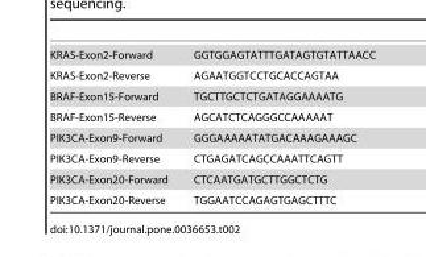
<table><tbody><tr><td>KRAS-Exon2-Forward</td><td>GGTGGAGTATTTGATAGTGTATTAACC</td></tr><tr><td>KRAS-Exon2-Reverse</td><td>AGAATGGTCCTGCACCAGTAA</td></tr><tr><td>BRAF-Exon15-Forward</td><td>TGCTTGCTCTGATAGGAAAATG</td></tr><tr><td>BRAF-Exon15-Reverse</td><td>AGCATCTCAGGGCCAAAAAT</td></tr><tr><td>PIK3CA-Exon9-Forward</td><td>GGGAAAAATATGACAAAGAAAGC</td></tr><tr><td>PIK3CA-Exon9-Reverse</td><td>CTGAGATCAGCCAAATTCAGTT</td></tr><tr><td>PIK3CA-Exon20-Forward</td><td>CTCAATGATGCTTGGCTCTG</td></tr><tr><td>PIK3CA-Exon20-Reverse</td><td>TGGAATCCAGAGTGAGCTTTC</td></tr></tbody></table>